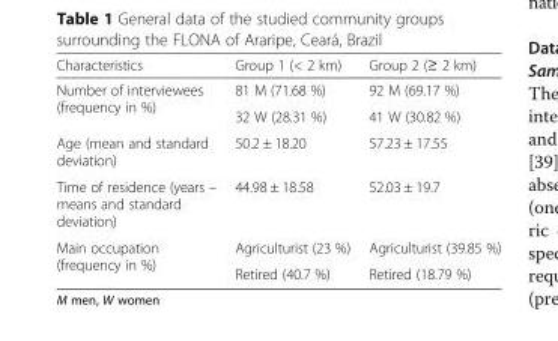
<table><thead><tr><td>Characteristics</td><td>Group 1 (&lt; 2 km)</td><td>Group 2 (≥ 2 km)</td></tr></thead><tbody><tr><td rowspan="2">Number of interviewees (frequency in %)</td><td>81 M (71.68 %)</td><td>92 M (69.17 %)</td></tr><tr><td>32 W (28.31 %)</td><td>41 W (30.82 %)</td></tr><tr><td>Age (mean and standard deviation)</td><td>50.2 ± 18.20</td><td>57.23 ± 17.55</td></tr><tr><td>Time of residence (years – means and standard deviation)</td><td>44.98 ± 18.58</td><td>52.03 ± 19.7</td></tr><tr><td rowspan="2">Main occupation (frequency in %)</td><td>Agriculturist (23 %)</td><td>Agriculturist (39.85 %)</td></tr><tr><td>Retired (40.7 %)</td><td>Retired (18.79 %)</td></tr></tbody></table>